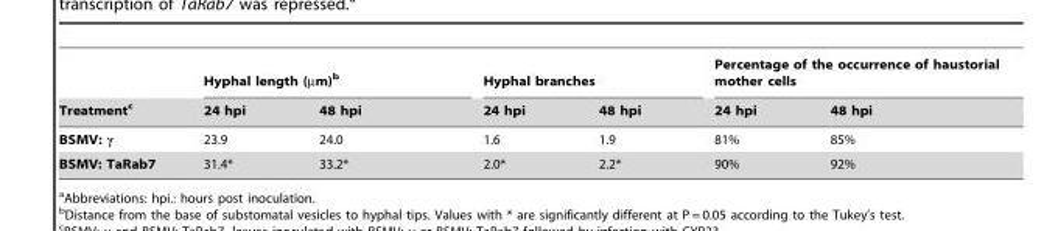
<table><thead><tr><td rowspan="2">Treatment<sup>c</sup></td><td colspan="2">Hyphal length (µm)<sup>b</sup></td><td colspan="2">Hyphal branches</td><td colspan="2">Percentage of the occurrence of haustorial mother cells</td></tr><tr><td>24 hpi</td><td>48 hpi</td><td>24 hpi</td><td>48 hpi</td><td>24 hpi</td><td>48 hpi</td></tr></thead><tbody><tr><td>BSMV: γ</td><td>23.9</td><td>24.0</td><td>1.6</td><td>1.9</td><td>81%</td><td>85%</td></tr><tr><td>BSMV: TaRab7</td><td>31.4*</td><td>33.2*</td><td>2.0*</td><td>2.2*</td><td>90%</td><td>92%</td></tr></tbody></table>